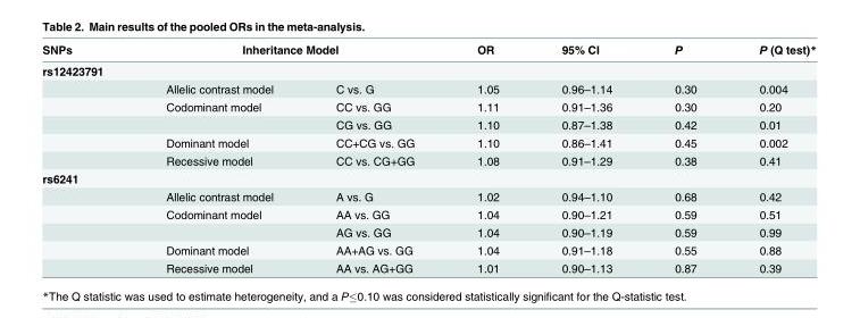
<table><thead><tr><td rowspan="2">SNPs rs12423791</td><td colspan="2">Inheritance Model</td><td rowspan="2">OR</td><td rowspan="2">95% CI</td><td rowspan="2">P</td><td rowspan="2">P (Q test)*</td></tr><tr><td></td><td></td></tr></thead><tbody><tr><td></td><td>Allelic contrast model</td><td>C vs. G</td><td>1.05</td><td>0.96–1.14</td><td>0.30</td><td>0.004</td></tr><tr><td></td><td>Codominant model</td><td>CC vs. GG</td><td>1.11</td><td>0.91–1.36</td><td>0.30</td><td>0.20</td></tr><tr><td></td><td></td><td>CG vs. GG</td><td>1.10</td><td>0.87–1.38</td><td>0.42</td><td>0.01</td></tr><tr><td></td><td>Dominant model</td><td>CC+CG vs. GG</td><td>1.10</td><td>0.86–1.41</td><td>0.45</td><td>0.002</td></tr><tr><td></td><td>Recessive model</td><td>CC vs. CG+GG</td><td>1.08</td><td>0.91–1.29</td><td>0.38</td><td>0.41</td></tr><tr><td colspan="7">rs6241</td></tr><tr><td></td><td>Allelic contrast model</td><td>A vs. G</td><td>1.02</td><td>0.94–1.10</td><td>0.68</td><td>0.42</td></tr><tr><td></td><td>Codominant model</td><td>AA vs. GG</td><td>1.04</td><td>0.90–1.21</td><td>0.59</td><td>0.51</td></tr><tr><td></td><td></td><td>AG vs. GG</td><td>1.04</td><td>0.90–1.19</td><td>0.59</td><td>0.99</td></tr><tr><td></td><td>Dominant model</td><td>AA+AG vs. GG</td><td>1.04</td><td>0.91–1.18</td><td>0.55</td><td>0.88</td></tr><tr><td></td><td>Recessive model</td><td>AA vs. AG+GG</td><td>1.01</td><td>0.90–1.13</td><td>0.87</td><td>0.39</td></tr></tbody></table>